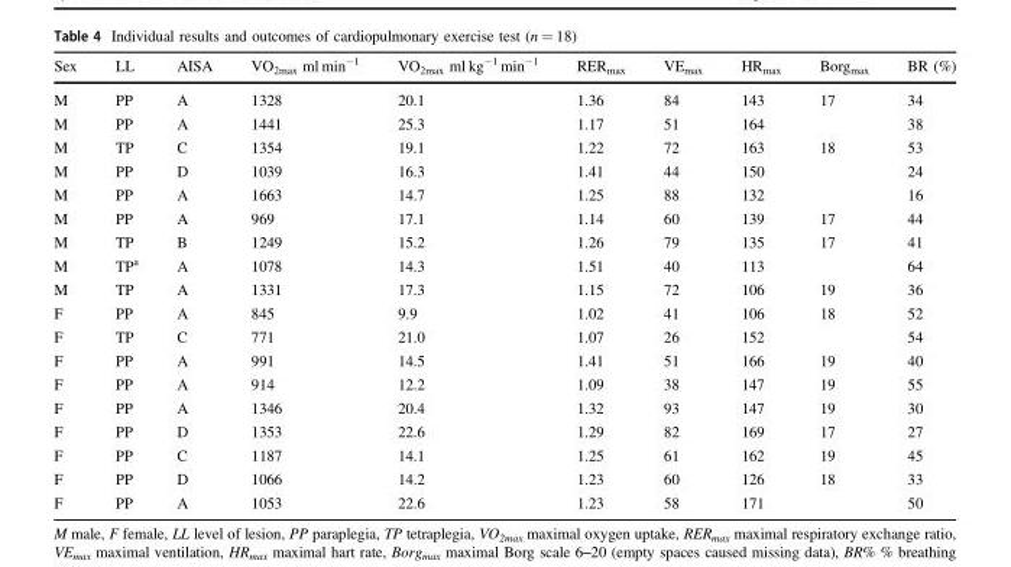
<table><thead><tr><td>Sex</td><td>LL</td><td>AISA</td><td>VO<sub>2max</sub> ml min<sup>−1</sup></td><td>VO<sub>2max</sub> ml kg<sup>−1</sup> min<sup>−1</sup></td><td>RER<sub>max</sub></td><td>VE<sub>max</sub></td><td>HR<sub>max</sub></td><td>Borg<sub>max</sub></td><td>BR (%)</td></tr></thead><tbody><tr><td>M</td><td>PP</td><td>A</td><td>1328</td><td>20.1</td><td>1.36</td><td>84</td><td>143</td><td>17</td><td>34</td></tr><tr><td>M</td><td>PP</td><td>A</td><td>1441</td><td>25.3</td><td>1.17</td><td>51</td><td>164</td><td></td><td>38</td></tr><tr><td>M</td><td>TP</td><td>C</td><td>1354</td><td>19.1</td><td>1.22</td><td>72</td><td>163</td><td>18</td><td>53</td></tr><tr><td>M</td><td>PP</td><td>D</td><td>1039</td><td>16.3</td><td>1.41</td><td>44</td><td>150</td><td></td><td>24</td></tr><tr><td>M</td><td>PP</td><td>A</td><td>1663</td><td>14.7</td><td>1.25</td><td>88</td><td>132</td><td></td><td>16</td></tr><tr><td>M</td><td>PP</td><td>A</td><td>969</td><td>17.1</td><td>1.14</td><td>60</td><td>139</td><td>17</td><td>44</td></tr><tr><td>M</td><td>TP</td><td>B</td><td>1249</td><td>15.2</td><td>1.26</td><td>79</td><td>135</td><td>17</td><td>41</td></tr><tr><td>M</td><td>TP<sup>a</sup></td><td>A</td><td>1078</td><td>14.3</td><td>1.51</td><td>40</td><td>113</td><td></td><td>64</td></tr><tr><td>M</td><td>TP</td><td>A</td><td>1331</td><td>17.3</td><td>1.15</td><td>72</td><td>106</td><td>19</td><td>36</td></tr><tr><td>F</td><td>PP</td><td>A</td><td>845</td><td>9.9</td><td>1.02</td><td>41</td><td>106</td><td>18</td><td>52</td></tr><tr><td>F</td><td>TP</td><td>C</td><td>771</td><td>21.0</td><td>1.07</td><td>26</td><td>152</td><td></td><td>54</td></tr><tr><td>F</td><td>PP</td><td>A</td><td>991</td><td>14.5</td><td>1.41</td><td>51</td><td>166</td><td>19</td><td>40</td></tr><tr><td>F</td><td>PP</td><td>A</td><td>914</td><td>12.2</td><td>1.09</td><td>38</td><td>147</td><td>19</td><td>55</td></tr><tr><td>F</td><td>PP</td><td>A</td><td>1346</td><td>20.4</td><td>1.32</td><td>93</td><td>147</td><td>19</td><td>30</td></tr><tr><td>F</td><td>PP</td><td>D</td><td>1353</td><td>22.6</td><td>1.29</td><td>82</td><td>169</td><td>17</td><td>27</td></tr><tr><td>F</td><td>PP</td><td>C</td><td>1187</td><td>14.1</td><td>1.25</td><td>61</td><td>162</td><td>19</td><td>45</td></tr><tr><td>F</td><td>PP</td><td>D</td><td>1066</td><td>14.2</td><td>1.23</td><td>60</td><td>126</td><td>18</td><td>33</td></tr><tr><td>F</td><td>PP</td><td>A</td><td>1053</td><td>22.6</td><td>1.23</td><td>58</td><td>171</td><td></td><td>50</td></tr></tbody></table>